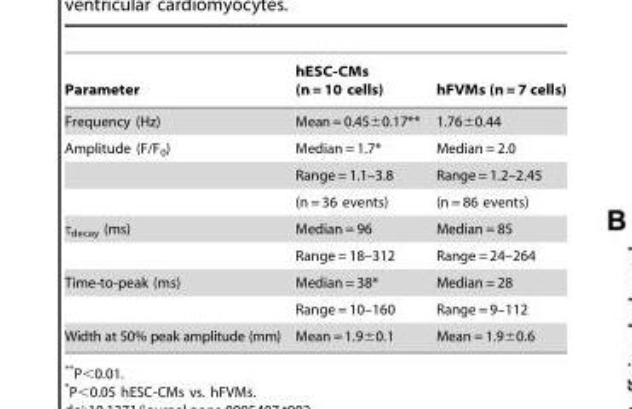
<table><thead><tr><td>Parameter</td><td>hESC-CMs (n = 10 cells)</td><td>hFVMs (n = 7 cells)</td></tr></thead><tbody><tr><td>Frequency (Hz)</td><td>Mean= 0.45±0.17**</td><td>1.76±0.44</td></tr><tr><td rowspan="3">Amplitude (F/F<sub>0</sub>)</td><td>Median = 1.7*</td><td>Median = 2.0</td></tr><tr><td>Range = 1.1–3.8</td><td>Range = 1.2–2.45</td></tr><tr><td>(n = 36 events)</td><td>(n = 86 events)</td></tr><tr><td rowspan="2">τ<sub>decay</sub> (ms)</td><td>Median = 96</td><td>Median = 85</td></tr><tr><td>Range = 18–312</td><td>Range = 24–264</td></tr><tr><td rowspan="2">Time-to-peak (ms)</td><td>Median = 38*</td><td>Median = 28</td></tr><tr><td>Range = 10–160</td><td>Range = 9–112</td></tr><tr><td>Width at 50% peak amplitude (mm)</td><td>Mean = 1.9±0.1</td><td>Mean = 1.9±0.6</td></tr></tbody></table>